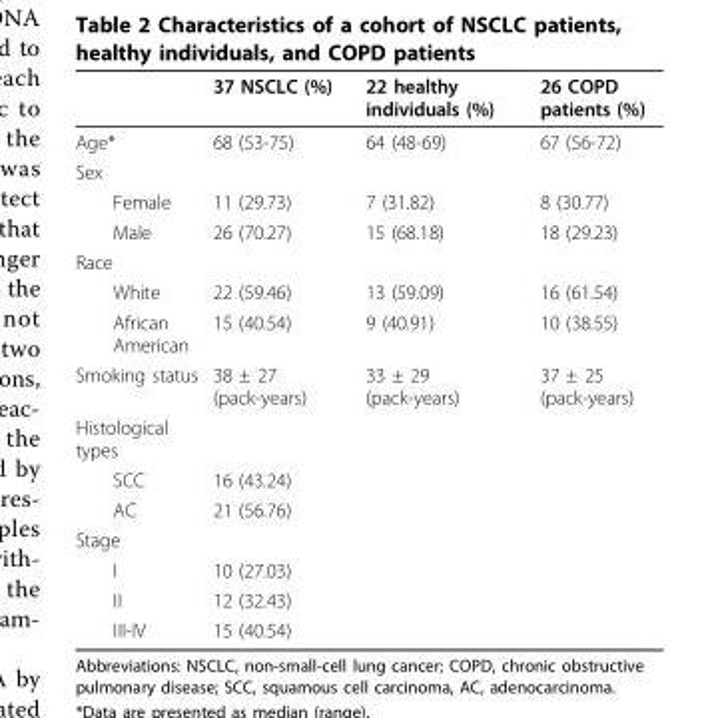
<table><thead><tr><td></td><td>37 NSCLC (%)</td><td>22 healthy individuals (%)</td><td>26 COPD patients (%)</td></tr></thead><tbody><tr><td>Age*</td><td>68 (53-75)</td><td>64 (48-69)</td><td>67 (56-72)</td></tr><tr><td colspan="4">Sex</td></tr><tr><td>Female</td><td>11 (29.73)</td><td>7 (31.82)</td><td>8 (30.77)</td></tr><tr><td>Male</td><td>26 (70.27)</td><td>15 (68.18)</td><td>18 (29.23)</td></tr><tr><td colspan="4">Race</td></tr><tr><td>White</td><td>22 (59.46)</td><td>13 (59.09)</td><td>16 (61.54)</td></tr><tr><td>African American</td><td>15 (40.54)</td><td>9 (40.91)</td><td>10 (38.55)</td></tr><tr><td>Smoking status</td><td>38 ± 27 (pack-years)</td><td>33 ± 29 (pack-years)</td><td>37 ± 25 (pack-years)</td></tr><tr><td colspan="4">Histological types</td></tr><tr><td>SCC</td><td>16 (43.24)</td><td></td><td></td></tr><tr><td>AC</td><td>21 (56.76)</td><td></td><td></td></tr><tr><td colspan="4">Stage</td></tr><tr><td>I</td><td>10 (27.03)</td><td></td><td></td></tr><tr><td>II</td><td>12 (32.43)</td><td></td><td></td></tr><tr><td>III-IV</td><td>15 (40.54)</td><td></td><td></td></tr></tbody></table>